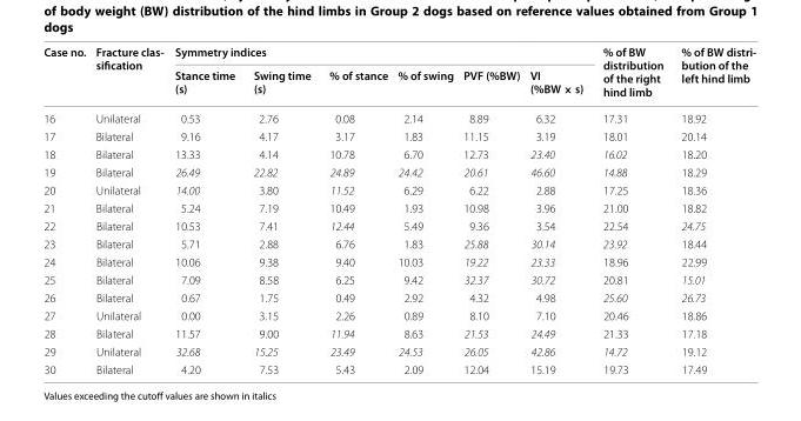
<table><thead><tr><td rowspan="2">Case no.</td><td rowspan="2">Fracture clas- sification</td><td colspan="6">Symmetry indices</td><td rowspan="2">% of BW distribution of the right hind limb</td><td rowspan="2">% of BW distri- bution of the left hind limb</td></tr><tr><td>Stance time (s)</td><td>Swing time (s)</td><td>% of stance</td><td>% of swing</td><td>PVF (%BW)</td><td>VI (%BW × s)</td></tr></thead><tbody><tr><td>16</td><td>Unilateral</td><td>0.53</td><td>2.76</td><td>0.08</td><td>2.14</td><td>8.89</td><td>6.32</td><td>17.31</td><td>18.92</td></tr><tr><td>17</td><td>Bilateral</td><td>9.16</td><td>4.17</td><td>3.17</td><td>1.83</td><td>11.15</td><td>3.19</td><td>18.01</td><td>20.14</td></tr><tr><td>18</td><td>Bilateral</td><td>13.33</td><td>4.14</td><td>10.78</td><td>6.70</td><td>12.73</td><td>23.40</td><td>16.02</td><td>18.20</td></tr><tr><td>19</td><td>Bilateral</td><td>26.49</td><td>22.82</td><td>24.89</td><td>24.42</td><td>20.61</td><td>46.60</td><td>14.88</td><td>18.29</td></tr><tr><td>20</td><td>Unilateral</td><td>14.00</td><td>3.80</td><td>11.52</td><td>6.29</td><td>6.22</td><td>2.88</td><td>17.25</td><td>18.36</td></tr><tr><td>21</td><td>Bilateral</td><td>5.24</td><td>7.19</td><td>10.49</td><td>1.93</td><td>10.98</td><td>3.96</td><td>21.00</td><td>18.82</td></tr><tr><td>22</td><td>Bilateral</td><td>10.53</td><td>7.41</td><td>12.44</td><td>5.49</td><td>9.36</td><td>3.54</td><td>22.54</td><td>24.75</td></tr><tr><td>23</td><td>Bilateral</td><td>5.71</td><td>2.88</td><td>6.76</td><td>1.83</td><td>25.88</td><td>30.14</td><td>23.92</td><td>18.44</td></tr><tr><td>24</td><td>Bilateral</td><td>10.06</td><td>9.38</td><td>9.40</td><td>10.03</td><td>19.22</td><td>23.33</td><td>18.96</td><td>22.99</td></tr><tr><td>25</td><td>Bilateral</td><td>7.09</td><td>8.58</td><td>6.25</td><td>9.42</td><td>32.37</td><td>30.72</td><td>20.81</td><td>15.01</td></tr><tr><td>26</td><td>Bilateral</td><td>0.67</td><td>1.75</td><td>0.49</td><td>2.92</td><td>4.32</td><td>4.98</td><td>25.60</td><td>26.73</td></tr><tr><td>27</td><td>Unilateral</td><td>0.00</td><td>3.15</td><td>2.26</td><td>0.89</td><td>8.10</td><td>7.10</td><td>20.46</td><td>18.86</td></tr><tr><td>28</td><td>Bilateral</td><td>11.57</td><td>9.00</td><td>11.94</td><td>8.63</td><td>21.53</td><td>24.49</td><td>21.33</td><td>17.18</td></tr><tr><td>29</td><td>Unilateral</td><td>32.68</td><td>15.25</td><td>23.49</td><td>24.53</td><td>26.05</td><td>42.86</td><td>14.72</td><td>19.12</td></tr><tr><td>30</td><td>Bilateral</td><td>4.20</td><td>7.53</td><td>5.43</td><td>2.09</td><td>12.04</td><td>15.19</td><td>19.73</td><td>17.49</td></tr></tbody></table>